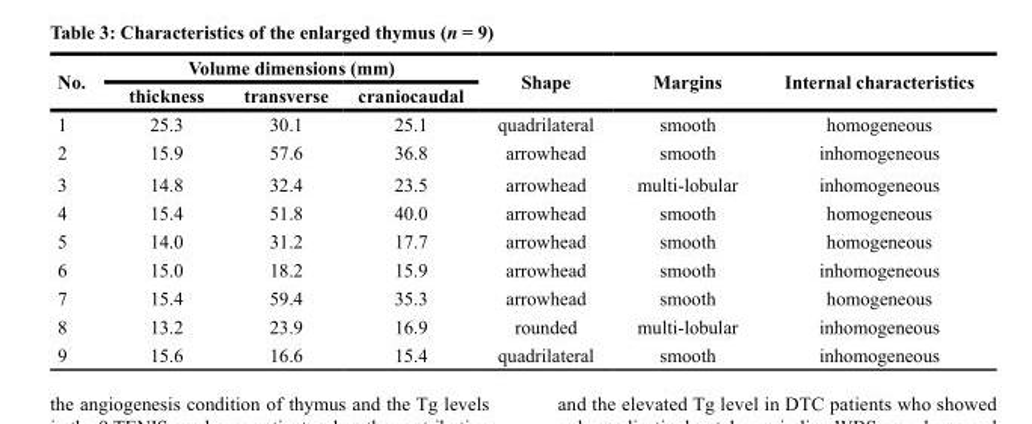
<table><thead><tr><td rowspan="2">No.</td><td colspan="3">Volume dimensions (mm)</td><td rowspan="2">Shape</td><td rowspan="2">Margins</td><td rowspan="2">Internal characteristics</td></tr><tr><td>thickness</td><td>transverse</td><td>craniocaudal</td></tr></thead><tbody><tr><td>1</td><td>25.3</td><td>30.1</td><td>25.1</td><td>quadrilateral</td><td>smooth</td><td>homogeneous</td></tr><tr><td>2</td><td>15.9</td><td>57.6</td><td>36.8</td><td>arrowhead</td><td>smooth</td><td>inhomogeneous</td></tr><tr><td>3</td><td>14.8</td><td>32.4</td><td>23.5</td><td>arrowhead</td><td>multi-lobular</td><td>inhomogeneous</td></tr><tr><td>4</td><td>15.4</td><td>51.8</td><td>40.0</td><td>arrowhead</td><td>smooth</td><td>homogeneous</td></tr><tr><td>5</td><td>14.0</td><td>31.2</td><td>17.7</td><td>arrowhead</td><td>smooth</td><td>homogeneous</td></tr><tr><td>6</td><td>15.0</td><td>18.2</td><td>15.9</td><td>arrowhead</td><td>smooth</td><td>inhomogeneous</td></tr><tr><td>7</td><td>15.4</td><td>59.4</td><td>35.3</td><td>arrowhead</td><td>smooth</td><td>homogeneous</td></tr><tr><td>8</td><td>13.2</td><td>23.9</td><td>16.9</td><td>rounded</td><td>multi-lobular</td><td>inhomogeneous</td></tr><tr><td>9</td><td>15.6</td><td>16.6</td><td>15.4</td><td>quadrilateral</td><td>smooth</td><td>inhomogeneous</td></tr></tbody></table>